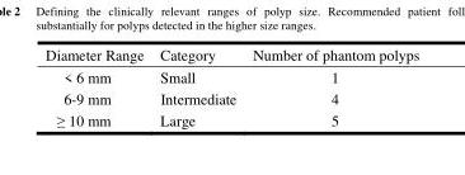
<table><thead><tr><td>Diameter Range</td><td>Category</td><td>Number of phantom polyps</td></tr></thead><tbody><tr><td>&lt; 6 mm</td><td>Small</td><td>1</td></tr><tr><td>6-9 mm</td><td>Intermediate</td><td>4</td></tr><tr><td>≥ 10 mm</td><td>Large</td><td>5</td></tr></tbody></table>